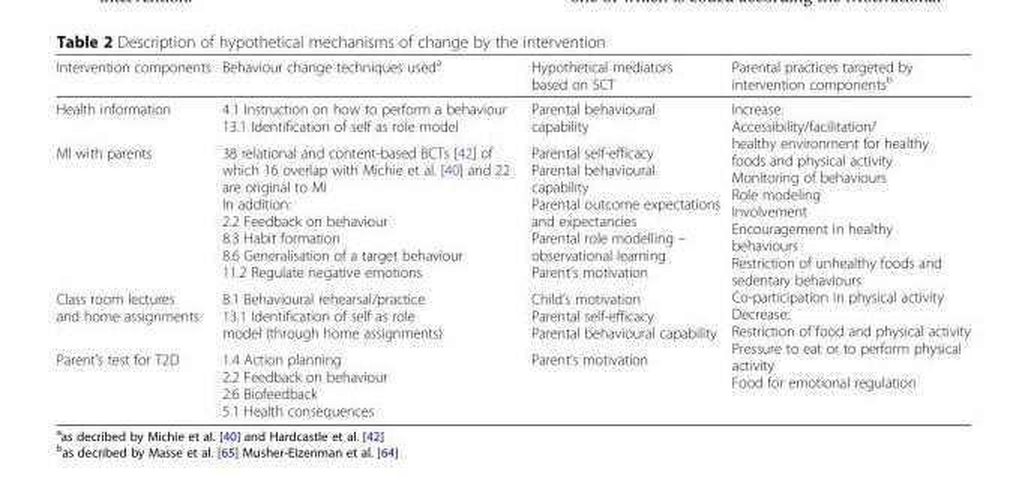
<table><thead><tr><td>Intervention components</td><td>Behaviour change techniques used<sup>a</sup></td><td>Hypothetical mediators based on SCT</td><td>Parental practices targeted by intervention components<sup>b</sup></td></tr></thead><tbody><tr><td>Health information</td><td>4.1 Instruction on how to perform a behaviour 13.1 Identification of self as role model</td><td>Parental behavioural capability</td><td rowspan="4">Increase: Accessibility/facilitation/ healthy environment for healthy foods and physical activity Monitoring of behaviours Role modeling Involvement Encouragement in healthy behaviours Restriction of unhealthy foods and sedentary behaviours Co-participation in physical activity Decrease: Restriction of food and physical activity Pressure to eat or to perform physical activity Food for emotional regulation</td></tr><tr><td>MI with parents</td><td>38 relational and content-based BCTs [42] of which 16 overlap with Michie et al. [40] and 22 are original to MI In addition: 2.2 Feedback on behaviour 8.3 Habit formation 8.6 Generalisation of a target behaviour 11.2 Regulate negative emotions</td><td>Parental self-efficacy Parental behavioural capability Parental outcome expectations and expectancies Parental role modelling – observational learning Parent’s motivation</td></tr><tr><td>Class room lectures and home assignments</td><td>8.1 Behavioural rehearsal/practice 13.1 Identification of self as role model (through home assignments)</td><td>Child’s motivation Parental self-efficacy Parental behavioural capability</td></tr><tr><td>Parent’s test for T2D</td><td>1.4 Action planning 2.2 Feedback on behaviour 2.6 Biofeedback 5.1 Health consequences</td><td>Parent’s motivation</td></tr></tbody></table>